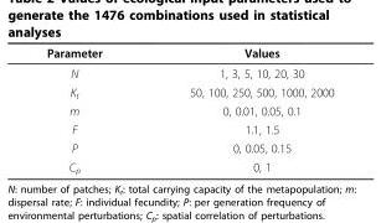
<table><thead><tr><td>Parameter</td><td>Values</td></tr></thead><tbody><tr><td>N</td><td>1, 3, 5, 10, 20, 30</td></tr><tr><td>K<sub>t</sub></td><td>50, 100, 250, 500, 1000, 2000</td></tr><tr><td>m</td><td>0, 0.01, 0.05, 0.1</td></tr><tr><td>F</td><td>1.1, 1.5</td></tr><tr><td>P</td><td>0, 0.05, 0.15</td></tr><tr><td>C<sub>p</sub></td><td>0, 1</td></tr></tbody></table>